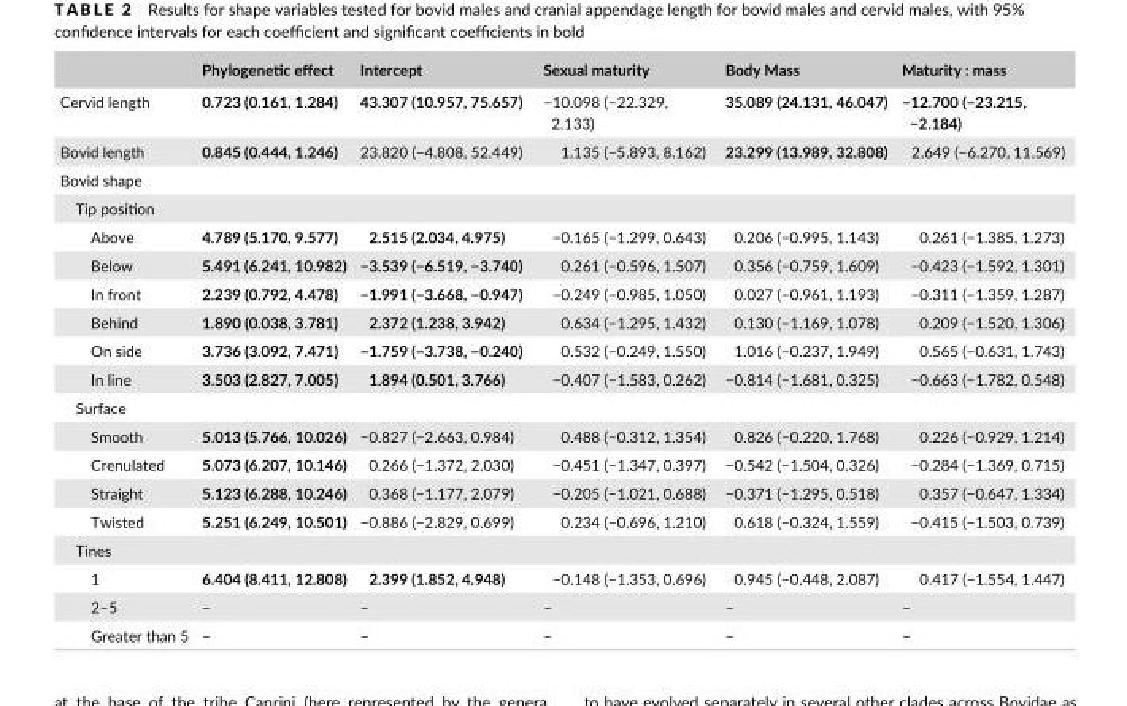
<table><thead><tr><td></td><td>Phylogenetic effect</td><td>Intercept</td><td>Sexual maturity</td><td>Body Mass</td><td>Maturity : mass</td></tr></thead><tbody><tr><td>Cervid length</td><td>0.723 (0.161, 1.284)</td><td>43.307 (10.957, 75.657)</td><td>−10.098 (−22.329, 2.133)</td><td>35.089 (24.131, 46.047)</td><td>−12.700 (−23.215, −2.184)</td></tr><tr><td>Bovid length</td><td>0.845 (0.444, 1.246)</td><td>23.820 (−4.808, 52.449)</td><td>1.135 (−5.893, 8.162)</td><td>23.299 (13.989, 32.808)</td><td>2.649 (−6.270, 11.569)</td></tr><tr><td colspan="6">Bovid shape</td></tr><tr><td colspan="6">Tip position</td></tr><tr><td>Above</td><td>4.789 (5.170, 9.577)</td><td>2.515 (2.034, 4.975)</td><td>−0.165 (−1.299, 0.643)</td><td>0.206 (−0.995, 1.143)</td><td>0.261 (−1.385, 1.273)</td></tr><tr><td>Below</td><td>5.491 (6.241, 10.982)</td><td>−3.539 (−6.519, −3.740)</td><td>0.261 (−0.596, 1.507)</td><td>0.356 (−0.759, 1.609)</td><td>−0.423 (−1.592, 1.301)</td></tr><tr><td>In front</td><td>2.239 (0.792, 4.478)</td><td>−1.991 (−3.668, −0.947)</td><td>−0.249 (−0.985, 1.050)</td><td>0.027 (−0.961, 1.193)</td><td>−0.311 (−1.359, 1.287)</td></tr><tr><td>Behind</td><td>1.890 (0.038, 3.781)</td><td>2.372 (1.238, 3.942)</td><td>0.634 (−1.295, 1.432)</td><td>0.130 (−1.169, 1.078)</td><td>0.209 (−1.520, 1.306)</td></tr><tr><td>On side</td><td>3.736 (3.092, 7.471)</td><td>−1.759 (−3.738, −0.240)</td><td>0.532 (−0.249, 1.550)</td><td>1.016 (−0.237, 1.949)</td><td>0.565 (−0.631, 1.743)</td></tr><tr><td>In line</td><td>3.503 (2.827, 7.005)</td><td>1.894 (0.501, 3.766)</td><td>−0.407 (−1.583, 0.262)</td><td>−0.814 (−1.681, 0.325)</td><td>−0.663 (−1.782, 0.548)</td></tr><tr><td colspan="6">Surface</td></tr><tr><td>Smooth</td><td>5.013 (5.766, 10.026)</td><td>−0.827 (−2.663, 0.984)</td><td>0.488 (−0.312, 1.354)</td><td>0.826 (−0.220, 1.768)</td><td>0.226 (−0.929, 1.214)</td></tr><tr><td>Crenulated</td><td>5.073 (6.207, 10.146)</td><td>0.266 (−1.372, 2.030)</td><td>−0.451 (−1.347, 0.397)</td><td>−0.542 (−1.504, 0.326)</td><td>−0.284 (−1.369, 0.715)</td></tr><tr><td>Straight</td><td>5.123 (6.288, 10.246)</td><td>0.368 (−1.177, 2.079)</td><td>−0.205 (−1.021, 0.688)</td><td>−0.371 (−1.295, 0.518)</td><td>0.357 (−0.647, 1.334)</td></tr><tr><td>Twisted</td><td>5.251 (6.249, 10.501)</td><td>−0.886 (−2.829, 0.699)</td><td>0.234 (−0.696, 1.210)</td><td>0.618 (−0.324, 1.559)</td><td>−0.415 (−1.503, 0.739)</td></tr><tr><td colspan="6">Tines</td></tr><tr><td>1</td><td>6.404 (8.411, 12.808)</td><td>2.399 (1.852, 4.948)</td><td>−0.148 (−1.353, 0.696)</td><td>0.945 (−0.448, 2.087)</td><td>0.417 (−1.554, 1.447)</td></tr><tr><td>2–5</td><td>–</td><td>–</td><td>–</td><td>–</td><td>–</td></tr><tr><td>Greater than 5</td><td>–</td><td>–</td><td>–</td><td>–</td><td>–</td></tr></tbody></table>